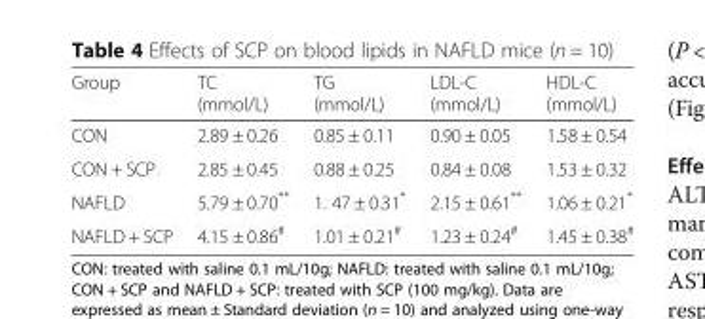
<table><thead><tr><td>Group</td><td>TC (mmol/L)</td><td>TG (mmol/L)</td><td>LDL-C (mmol/L)</td><td>HDL-C (mmol/L)</td></tr></thead><tbody><tr><td>CON</td><td>2.89 ± 0.26</td><td>0.85 ± 0.11</td><td>0.90 ± 0.05</td><td>1.58 ± 0.54</td></tr><tr><td>CON + SCP</td><td>2.85 ± 0.45</td><td>0.88 ± 0.25</td><td>0.84 ± 0.08</td><td>1.53 ± 0.32</td></tr><tr><td>NAFLD</td><td>5.79 ± 0.70**</td><td>1. 47 ± 0.31*</td><td>2.15 ± 0.61**</td><td>1.06 ± 0.21*</td></tr><tr><td>NAFLD + SCP</td><td>4.15 ± 0.86<sup>#</sup></td><td>1.01 ± 0.21<sup>#</sup></td><td>1.23 ± 0.24<sup>#</sup></td><td>1.45 ± 0.38<sup>#</sup></td></tr></tbody></table>